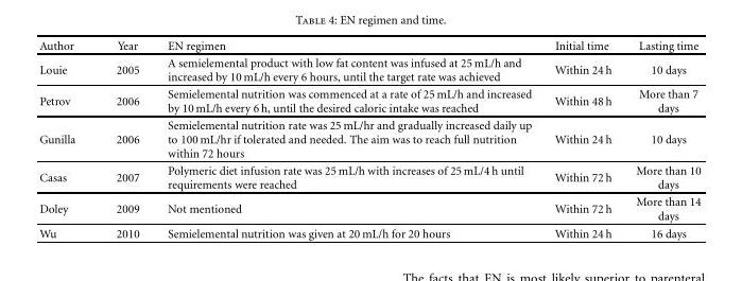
<table><thead><tr><td>Author</td><td>Year</td><td>EN regimen</td><td>Initial time</td><td>Lasting time</td></tr></thead><tbody><tr><td>Louie</td><td>2005</td><td>A semielemental product with low fat content was infused at 25 mL/h and increased by 10 mL/h every 6 hours, until the target rate was achieved</td><td>Within 24 h</td><td>10 days</td></tr><tr><td>Petrov</td><td>2006</td><td>Semielemental nutrition was commenced at a rate of 25 mL/h and increased by 10 mL/h every 6 h, until the desired caloric intake was reached</td><td>Within 48 h</td><td>More than 7 days</td></tr><tr><td>Gunilla</td><td>2006</td><td>Semielemental nutrition rate was 25 mL/hr and gradually increased daily up to 100 mL/hr if tolerated and needed. The aim was to reach full nutrition within 72 hours</td><td>Within 24 h</td><td>10 days</td></tr><tr><td>Casas</td><td>2007</td><td>Polymeric diet infusion rate was 25 mL/h with increases of 25 mL/4 h until requirements were reached</td><td>Within 72 h</td><td>More than 10 days</td></tr><tr><td>Doley</td><td>2009</td><td>Not mentioned</td><td>Within 72 h</td><td>More than 14 days</td></tr><tr><td>Wu</td><td>2010</td><td>Semielemental nutrition was given at 20 mL/h for 20 hours</td><td>Within 24 h</td><td>16 days</td></tr></tbody></table>